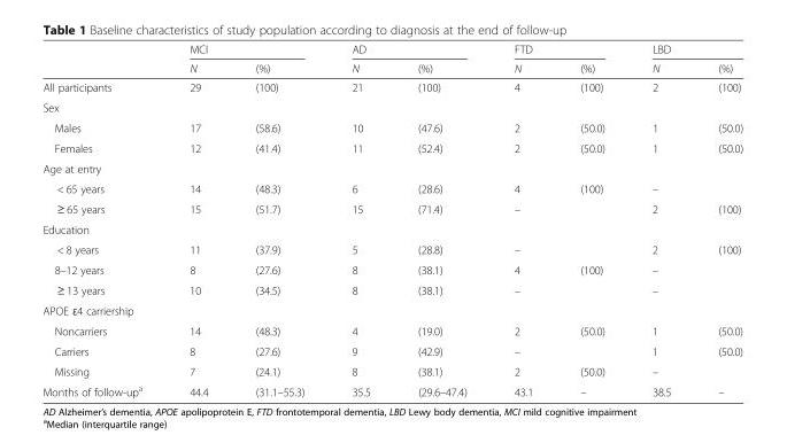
<table><thead><tr><td rowspan="2"></td><td colspan="2">MCI</td><td colspan="2">AD</td><td colspan="2">FTD</td><td colspan="2">LBD</td></tr><tr><td>N</td><td>(%)</td><td>N</td><td>(%)</td><td>N</td><td>(%)</td><td>N</td><td>(%)</td></tr></thead><tbody><tr><td>All participants</td><td>29</td><td>(100)</td><td>21</td><td>(100)</td><td>4</td><td>(100)</td><td>2</td><td>(100)</td></tr><tr><td colspan="9">Sex</td></tr><tr><td>Males</td><td>17</td><td>(58.6)</td><td>10</td><td>(47.6)</td><td>2</td><td>(50.0)</td><td>1</td><td>(50.0)</td></tr><tr><td>Females</td><td>12</td><td>(41.4)</td><td>11</td><td>(52.4)</td><td>2</td><td>(50.0)</td><td>1</td><td>(50.0)</td></tr><tr><td colspan="9">Age at entry</td></tr><tr><td>&lt; 65 years</td><td>14</td><td>(48.3)</td><td>6</td><td>(28.6)</td><td>4</td><td>(100)</td><td>–</td><td></td></tr><tr><td>≥ 65 years</td><td>15</td><td>(51.7)</td><td>15</td><td>(71.4)</td><td>–</td><td></td><td>2</td><td>(100)</td></tr><tr><td colspan="9">Education</td></tr><tr><td>&lt; 8 years</td><td>11</td><td>(37.9)</td><td>5</td><td>(28.8)</td><td>–</td><td></td><td>2</td><td>(100)</td></tr><tr><td>8–12 years</td><td>8</td><td>(27.6)</td><td>8</td><td>(38.1)</td><td>4</td><td>(100)</td><td>–</td><td></td></tr><tr><td>≥ 13 years</td><td>10</td><td>(34.5)</td><td>8</td><td>(38.1)</td><td>–</td><td></td><td>–</td><td></td></tr><tr><td colspan="9">APOE ɛ4 carriership</td></tr><tr><td>Noncarriers</td><td>14</td><td>(48.3)</td><td>4</td><td>(19.0)</td><td>2</td><td>(50.0)</td><td>1</td><td>(50.0)</td></tr><tr><td>Carriers</td><td>8</td><td>(27.6)</td><td>9</td><td>(42.9)</td><td>–</td><td></td><td>1</td><td>(50.0)</td></tr><tr><td>Missing</td><td>7</td><td>(24.1)</td><td>8</td><td>(38.1)</td><td>2</td><td>(50.0)</td><td>–</td><td></td></tr><tr><td>Months of follow-up<sup>a</sup></td><td>44.4</td><td>(31.1–55.3)</td><td>35.5</td><td>(29.6–47.4)</td><td>43.1</td><td>–</td><td>38.5</td><td>–</td></tr></tbody></table>